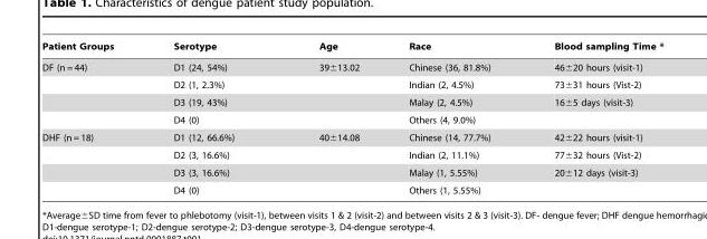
<table><thead><tr><td>Patient Groups</td><td>Serotype</td><td>Age</td><td>Race</td><td>Blood sampling Time *</td></tr></thead><tbody><tr><td rowspan="4">DF (n = 44)</td><td>D1 (24, 54%)</td><td>39±13.02</td><td>Chinese (36, 81.8%)</td><td>46±20 hours (visit-1)</td></tr><tr><td>D2 (1, 2.3%)</td><td></td><td>Indian (2, 4.5%)</td><td>73±31 hours (Vist-2)</td></tr><tr><td>D3 (19, 43%)</td><td></td><td>Malay (2, 4.5%)</td><td>16±5 days (visit-3)</td></tr><tr><td>D4 (0)</td><td></td><td>Others (4, 9.0%)</td><td></td></tr><tr><td rowspan="4">DHF (n = 18)</td><td>D1 (12, 66.6%)</td><td>40±14.08</td><td>Chinese (14, 77.7%)</td><td>42±22 hours (visit-1)</td></tr><tr><td>D2 (3, 16.6%)</td><td></td><td>Indian (2, 11.1%)</td><td>77±32 hours (Vist-2)</td></tr><tr><td>D3 (3, 16.6%)</td><td></td><td>Malay (1, 5.55%)</td><td>20±12 days (visit-3)</td></tr><tr><td>D4 (0)</td><td></td><td>Others (1, 5.55%)</td><td></td></tr></tbody></table>